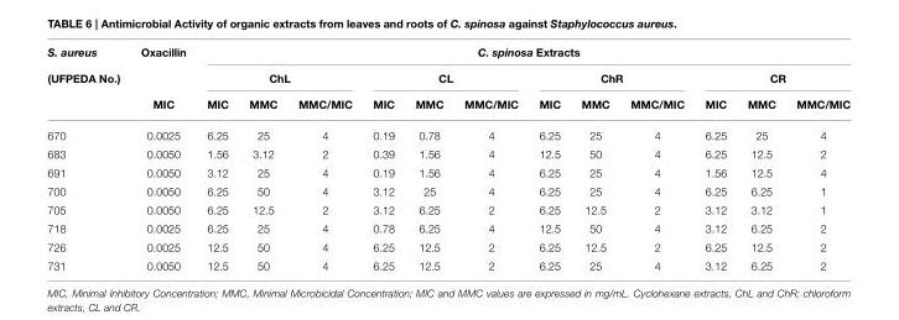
<table><thead><tr><td rowspan="3">S. aureus (UFPEDA No.)</td><td rowspan="3">Oxacillin MIC</td><td colspan="12">C. spinosa Extracts</td></tr><tr><td colspan="3">ChL</td><td colspan="3">CL</td><td colspan="3">ChR</td><td colspan="3">CR</td></tr><tr><td>MIC</td><td>MMC</td><td>MMC/MIC</td><td>MIC</td><td>MMC</td><td>MMC/MIC</td><td>MIC</td><td>MMC</td><td>MMC/MIC</td><td>MIC</td><td>MMC</td><td>MMC/MIC</td></tr></thead><tbody><tr><td>670</td><td>0.0025</td><td>6.25</td><td>25</td><td>4</td><td>0.19</td><td>0.78</td><td>4</td><td>6.25</td><td>25</td><td>4</td><td>6.25</td><td>25</td><td>4</td></tr><tr><td>683</td><td>0.0050</td><td>1.56</td><td>3.12</td><td>2</td><td>0.39</td><td>1.56</td><td>4</td><td>12.5</td><td>50</td><td>4</td><td>6.25</td><td>12.5</td><td>2</td></tr><tr><td>691</td><td>0.0050</td><td>3.12</td><td>25</td><td>4</td><td>0.19</td><td>1.56</td><td>4</td><td>6.25</td><td>25</td><td>4</td><td>1.56</td><td>12.5</td><td>4</td></tr><tr><td>700</td><td>0.0050</td><td>6.25</td><td>50</td><td>4</td><td>3.12</td><td>25</td><td>4</td><td>6.25</td><td>25</td><td>4</td><td>6.25</td><td>6.25</td><td>1</td></tr><tr><td>705</td><td>0.0050</td><td>6.25</td><td>12.5</td><td>2</td><td>3.12</td><td>6.25</td><td>2</td><td>6.25</td><td>12.5</td><td>2</td><td>3.12</td><td>3.12</td><td>1</td></tr><tr><td>718</td><td>0.0025</td><td>6.25</td><td>25</td><td>4</td><td>0.78</td><td>6.25</td><td>4</td><td>12.5</td><td>50</td><td>4</td><td>3.12</td><td>6.25</td><td>2</td></tr><tr><td>726</td><td>0.0025</td><td>12.5</td><td>50</td><td>4</td><td>6.25</td><td>12.5</td><td>2</td><td>6.25</td><td>12.5</td><td>2</td><td>6.25</td><td>12.5</td><td>2</td></tr><tr><td>731</td><td>0.0050</td><td>12.5</td><td>50</td><td>4</td><td>6.25</td><td>12.5</td><td>2</td><td>6.25</td><td>25</td><td>4</td><td>3.12</td><td>6.25</td><td>2</td></tr></tbody></table>